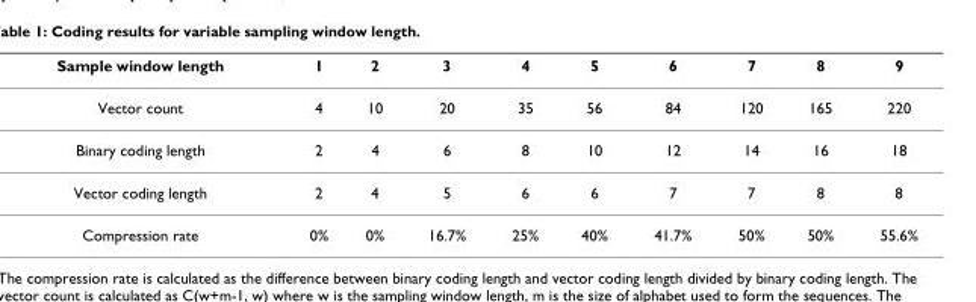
<table><thead><tr><td>Sample window length</td><td>1</td><td>2</td><td>3</td><td>4</td><td>5</td><td>6</td><td>7</td><td>8</td><td>9</td></tr></thead><tbody><tr><td>Vector count</td><td>4</td><td>10</td><td>20</td><td>35</td><td>56</td><td>84</td><td>120</td><td>165</td><td>220</td></tr><tr><td>Binary coding length</td><td>2</td><td>4</td><td>6</td><td>8</td><td>10</td><td>12</td><td>14</td><td>16</td><td>18</td></tr><tr><td>Vector coding length</td><td>2</td><td>4</td><td>5</td><td>6</td><td>6</td><td>7</td><td>7</td><td>8</td><td>8</td></tr><tr><td>Compression rate</td><td>0%</td><td>0%</td><td>16.7%</td><td>25%</td><td>40%</td><td>41.7%</td><td>50%</td><td>50%</td><td>55.6%</td></tr></tbody></table>